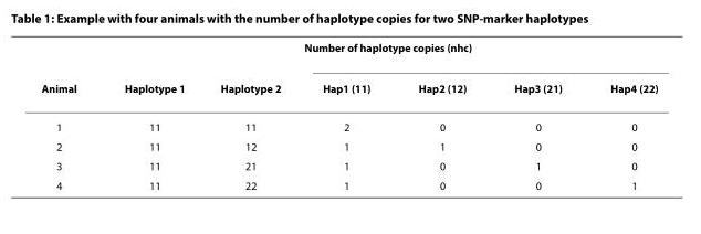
<table><thead><tr><td rowspan="2">Animal</td><td rowspan="2">Haplotype 1</td><td rowspan="2">Haplotype 2</td><td colspan="4">Number of haplotype copies (nhc)</td></tr><tr><td>Hap1 (11)</td><td>Hap2 (12)</td><td>Hap3 (21)</td><td>Hap4 (22)</td></tr></thead><tbody><tr><td>1</td><td>11</td><td>11</td><td>2</td><td>0</td><td>0</td><td>0</td></tr><tr><td>2</td><td>11</td><td>12</td><td>1</td><td>1</td><td>0</td><td>0</td></tr><tr><td>3</td><td>11</td><td>21</td><td>1</td><td>0</td><td>1</td><td>0</td></tr><tr><td>4</td><td>11</td><td>22</td><td>1</td><td>0</td><td>0</td><td>1</td></tr></tbody></table>